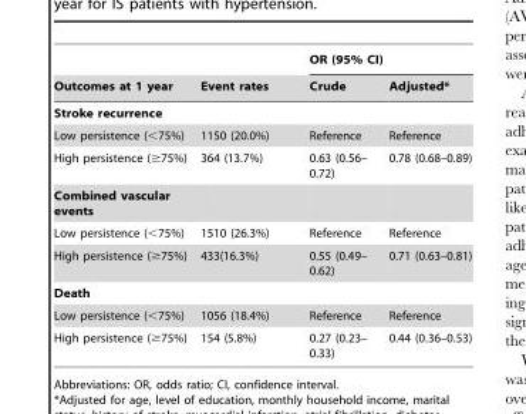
<table><thead><tr><td rowspan="2">Outcomes at 1 year</td><td rowspan="2">Event rates</td><td colspan="2">OR (95% CI)</td></tr><tr><td>Crude</td><td>Adjusted*</td></tr></thead><tbody><tr><td colspan="4">Stroke recurrence</td></tr><tr><td>Low persistence (&lt;75%)</td><td>1150 (20.0%)</td><td>Reference</td><td>Reference</td></tr><tr><td>High persistence (≥75%)</td><td>364 (13.7%)</td><td>0.63 (0.56– 0.72)</td><td>0.78 (0.68–0.89)</td></tr><tr><td colspan="4">Combined vascular events</td></tr><tr><td>Low persistence (&lt;75%)</td><td>1510 (26.3%)</td><td>Reference</td><td>Reference</td></tr><tr><td>High persistence (≥75%)</td><td>433(16.3%)</td><td>0.55 (0.49– 0.62)</td><td>0.71 (0.63–0.81)</td></tr><tr><td colspan="4">Death</td></tr><tr><td>Low persistence (&lt;75%)</td><td>1056 (18.4%)</td><td>Reference</td><td>Reference</td></tr><tr><td>High persistence (≥75%)</td><td>154 (5.8%)</td><td>0.27 (0.23– 0.33)</td><td>0.44 (0.36–0.53)</td></tr></tbody></table>